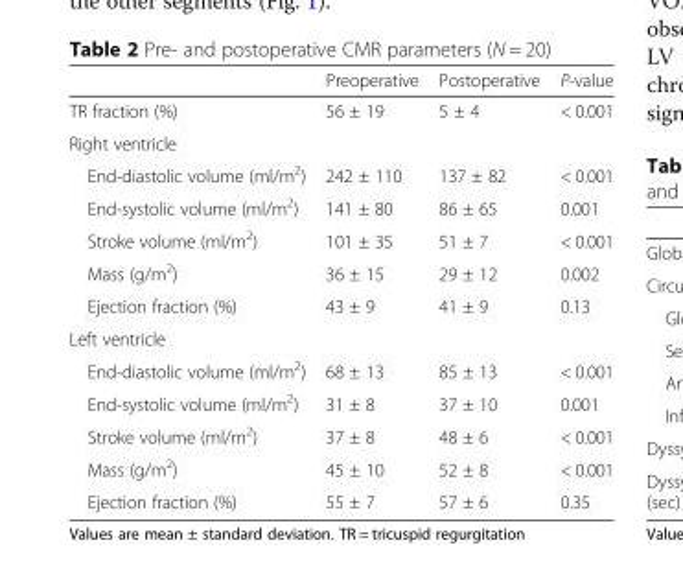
<table><thead><tr><td></td><td>Preoperative</td><td>Postoperative</td><td>P-value</td></tr></thead><tbody><tr><td>TR fraction (%)</td><td>56 ± 19</td><td>5 ± 4</td><td>&lt; 0.001</td></tr><tr><td colspan="4">Right ventricle</td></tr><tr><td>End-diastolic volume (ml/m<sup>2</sup>)</td><td>242 ± 110</td><td>137 ± 82</td><td>&lt; 0.001</td></tr><tr><td>End-systolic volume (ml/m<sup>2</sup>)</td><td>141 ± 80</td><td>86 ± 65</td><td>0.001</td></tr><tr><td>Stroke volume (ml/m<sup>2</sup>)</td><td>101 ± 35</td><td>51 ± 7</td><td>&lt; 0.001</td></tr><tr><td>Mass (g/m<sup>2</sup>)</td><td>36 ± 15</td><td>29 ± 12</td><td>0.002</td></tr><tr><td>Ejection fraction (%)</td><td>43 ± 9</td><td>41 ± 9</td><td>0.13</td></tr><tr><td colspan="4">Left ventricle</td></tr><tr><td>End-diastolic volume (ml/m<sup>2</sup>)</td><td>68 ± 13</td><td>85 ± 13</td><td>&lt; 0.001</td></tr><tr><td>End-systolic volume (ml/m<sup>2</sup>)</td><td>31 ± 8</td><td>37 ± 10</td><td>0.001</td></tr><tr><td>Stroke volume (ml/m<sup>2</sup>)</td><td>37 ± 8</td><td>48 ± 6</td><td>&lt; 0.001</td></tr><tr><td>Mass (g/m<sup>2</sup>)</td><td>45 ± 10</td><td>52 ± 8</td><td>&lt; 0.001</td></tr><tr><td>Ejection fraction (%)</td><td>55 ± 7</td><td>57 ± 6</td><td>0.35</td></tr></tbody></table>